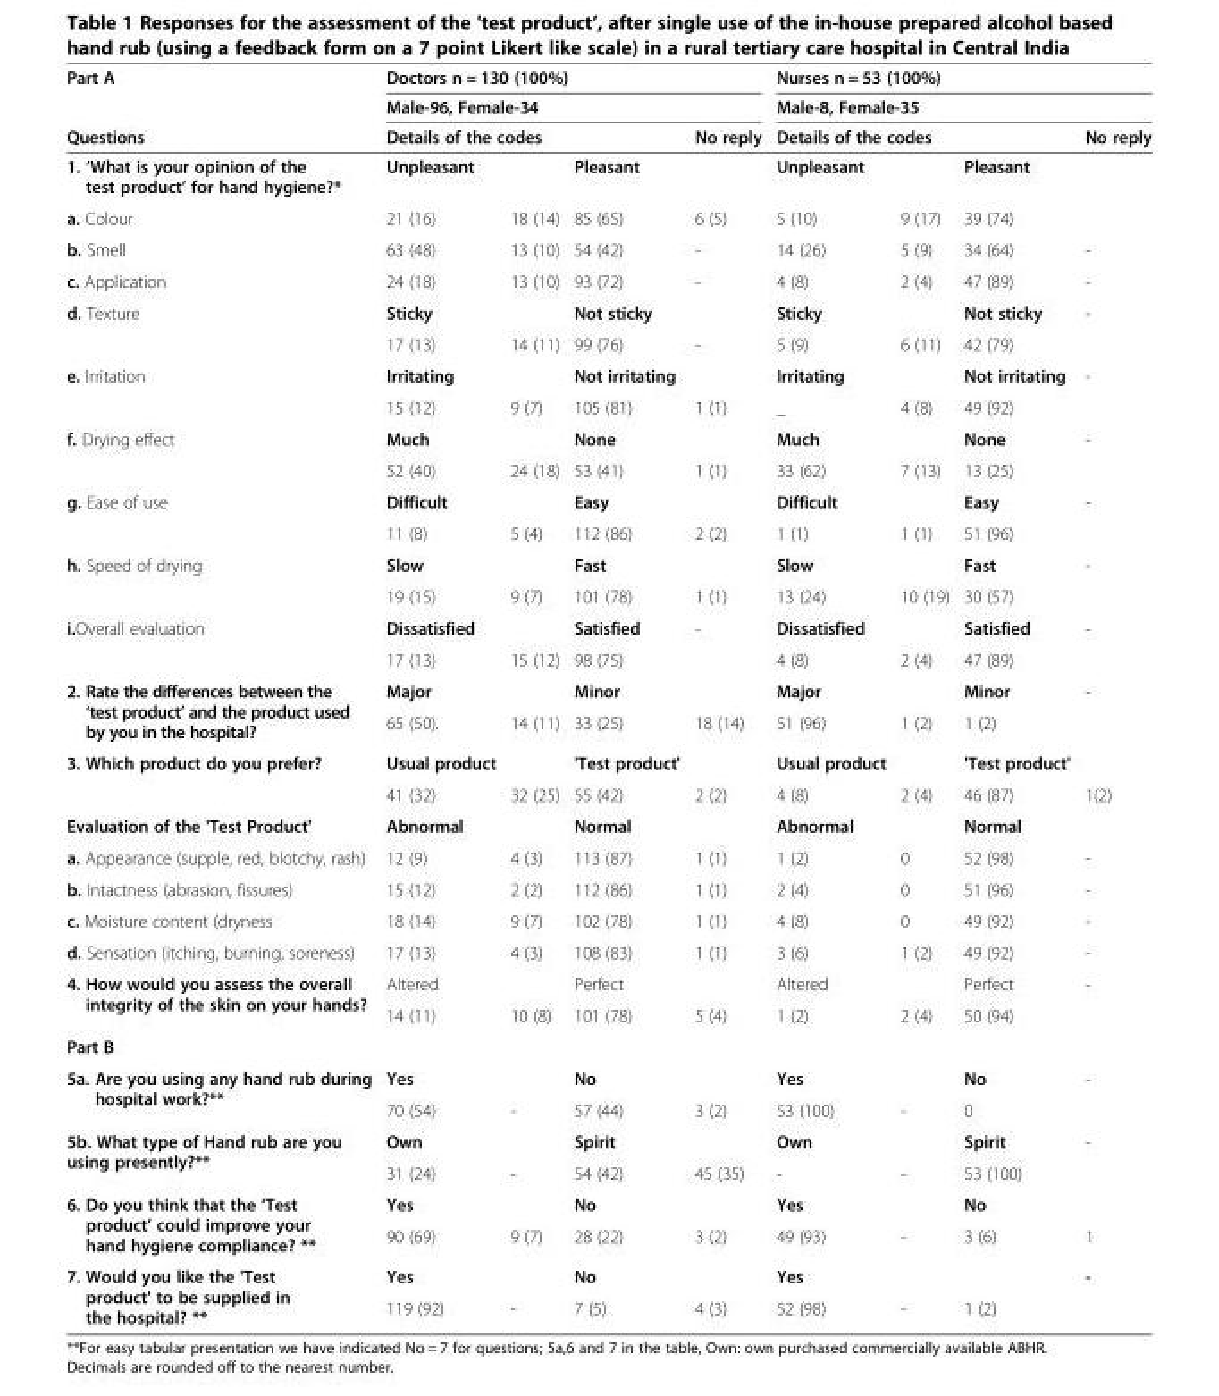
<table><thead><tr><td rowspan="4">Part A Questions 1. ‘What is your opinion of the test product’ for hand hygiene?*</td><td rowspan="2" colspan="4">Doctors n = 130 (100%) Male-96, Female-34</td><td rowspan="2" colspan="4">Nurses n = 53 (100%) Male-8, Female-35</td></tr><tr></tr><tr><td colspan="3">Details of the codes</td><td rowspan="2">No reply</td><td colspan="3">Details of the codes</td><td rowspan="2">No reply</td></tr><tr><td>Unpleasant</td><td></td><td>Pleasant</td><td>Unpleasant</td><td></td><td>Pleasant</td></tr></thead><tbody><tr><td>a. Colour</td><td>21 (16)</td><td>18 (14)</td><td>85 (65)</td><td>6 (5)</td><td>5 (10)</td><td>9 (17)</td><td>39 (74)</td><td></td></tr><tr><td>b. Smell</td><td>63 (48)</td><td>13 (10)</td><td>54 (42)</td><td>-</td><td>14 (26)</td><td>5 (9)</td><td>34 (64)</td><td>-</td></tr><tr><td>c. Application</td><td>24 (18)</td><td>13 (10)</td><td>93 (72)</td><td>-</td><td>4 (8)</td><td>2 (4)</td><td>47 (89)</td><td>-</td></tr><tr><td rowspan="2">d. Texture</td><td>Sticky</td><td></td><td>Not sticky</td><td></td><td>Sticky</td><td></td><td>Not sticky</td><td rowspan="2">-</td></tr><tr><td>17 (13)</td><td>14 (11)</td><td>99 (76)</td><td>-</td><td>5 (9)</td><td>6 (11)</td><td>42 (79)</td></tr><tr><td rowspan="2">e. Irritation</td><td>Irritating</td><td></td><td>Not irritating</td><td></td><td>Irritating</td><td></td><td>Not irritating</td><td rowspan="2">-</td></tr><tr><td>15 (12)</td><td>9 (7)</td><td>105 (81)</td><td>1 (1)</td><td>_</td><td>4 (8)</td><td>49 (92)</td></tr><tr><td rowspan="2">f. Drying effect</td><td>Much</td><td></td><td>None</td><td></td><td>Much</td><td></td><td>None</td><td rowspan="2">-</td></tr><tr><td>52 (40)</td><td>24 (18)</td><td>53 (41)</td><td>1 (1)</td><td>33 (62)</td><td>7 (13)</td><td>13 (25)</td></tr><tr><td rowspan="2">g. Ease of use</td><td>Difficult</td><td></td><td>Easy</td><td></td><td>Difficult</td><td></td><td>Easy</td><td rowspan="2">-</td></tr><tr><td>11 (8)</td><td>5 (4)</td><td>112 (86)</td><td>2 (2)</td><td>1 (1)</td><td>1 (1)</td><td>51 (96)</td></tr><tr><td rowspan="2">h. Speed of drying</td><td>Slow</td><td></td><td>Fast</td><td></td><td>Slow</td><td></td><td>Fast</td><td rowspan="2">-</td></tr><tr><td>19 (15)</td><td>9 (7)</td><td>101 (78)</td><td>1 (1)</td><td>13 (24)</td><td>10 (19)</td><td>30 (57)</td></tr><tr><td rowspan="2">i.Overall evaluation</td><td>Dissatisfied</td><td></td><td>Satisfied</td><td>-</td><td>Dissatisfied</td><td></td><td>Satisfied</td><td rowspan="2">-</td></tr><tr><td>17 (13)</td><td>15 (12)</td><td>98 (75)</td><td></td><td>4 (8)</td><td>2 (4)</td><td>47 (89)</td></tr><tr><td rowspan="2">2. Rate the differences between the ‘test product’ and the product used by you in the hospital?</td><td>Major</td><td></td><td>Minor</td><td></td><td>Major</td><td></td><td>Minor</td><td rowspan="2">-</td></tr><tr><td>65 (50).</td><td>14 (11)</td><td>33 (25)</td><td>18 (14)</td><td>51 (96)</td><td>1 (2)</td><td>1 (2)</td></tr><tr><td rowspan="2">3. Which product do you prefer?</td><td>Usual product</td><td></td><td>&#x27;Test product&#x27;</td><td></td><td>Usual product</td><td></td><td>&#x27;Test product&#x27;</td><td></td></tr><tr><td>41 (32)</td><td>32 (25)</td><td>55 (42)</td><td>2 (2)</td><td>4 (8)</td><td>2 (4)</td><td>46 (87)</td><td>1(2)</td></tr><tr><td>Evaluation of the &#x27;Test Product&#x27;</td><td>Abnormal</td><td></td><td>Normal</td><td></td><td>Abnormal</td><td></td><td>Normal</td><td></td></tr><tr><td>a. Appearance (supple, red, blotchy, rash)</td><td>12 (9)</td><td>4 (3)</td><td>113 (87)</td><td>1 (1)</td><td>1 (2)</td><td>0</td><td>52 (98)</td><td>-</td></tr><tr><td>b. Intactness (abrasion, fissures)</td><td>15 (12)</td><td>2 (2)</td><td>112 (86)</td><td>1 (1)</td><td>2 (4)</td><td>0</td><td>51 (96)</td><td>-</td></tr><tr><td>c. Moisture content (dryness</td><td>18 (14)</td><td>9 (7)</td><td>102 (78)</td><td>1 (1)</td><td>4 (8)</td><td>0</td><td>49 (92)</td><td>-</td></tr><tr><td>d. Sensation (itching, burning, soreness)</td><td>17 (13)</td><td>4 (3)</td><td>108 (83)</td><td>1 (1)</td><td>3 (6)</td><td>1 (2)</td><td>49 (92)</td><td>-</td></tr><tr><td rowspan="2">4. How would you assess the overall integrity of the skin on your hands?</td><td>Altered</td><td></td><td>Perfect</td><td></td><td>Altered</td><td></td><td>Perfect</td><td rowspan="2">-</td></tr><tr><td>14 (11)</td><td>10 (8)</td><td>101 (78)</td><td>5 (4)</td><td>1 (2)</td><td>2 (4)</td><td>50 (94)</td></tr><tr><td colspan="9">Part B</td></tr><tr><td rowspan="2">5a. Are you using any hand rub during hospital work?**</td><td>Yes</td><td></td><td>No</td><td></td><td>Yes</td><td></td><td>No</td><td rowspan="2">-</td></tr><tr><td>70 (54)</td><td>-</td><td>57 (44)</td><td>3 (2)</td><td>53 (100)</td><td>-</td><td>0</td></tr><tr><td rowspan="2">5b. What type of Hand rub are you using presently?**</td><td>Own</td><td></td><td>Spirit</td><td></td><td>Own</td><td></td><td>Spirit</td><td rowspan="2">-</td></tr><tr><td>31 (24)</td><td>-</td><td>54 (42)</td><td>45 (35)</td><td>-</td><td>-</td><td>53 (100)</td></tr><tr><td rowspan="2">6. Do you think that the ‘Test product’ could improve your hand hygiene compliance? **</td><td>Yes</td><td></td><td>No</td><td></td><td>Yes</td><td></td><td>No</td><td></td></tr><tr><td>90 (69)</td><td>9 (7)</td><td>28 (22)</td><td>3 (2)</td><td>49 (93)</td><td>-</td><td>3 (6)</td><td>1</td></tr><tr><td rowspan="2">7. Would you like the &#x27;Test product&#x27; to be supplied in the hospital? **</td><td>Yes</td><td></td><td>No</td><td></td><td>Yes</td><td></td><td></td><td rowspan="2">-</td></tr><tr><td>119 (92)</td><td>-</td><td>7 (5)</td><td>4 (3)</td><td>52 (98)</td><td>-</td><td>1 (2)</td></tr></tbody></table>